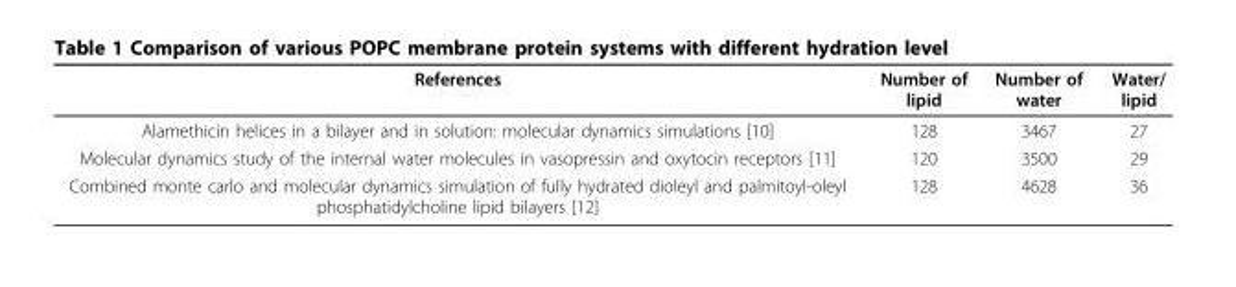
<table><thead><tr><td>References</td><td>Number of lipid</td><td>Number of water</td><td>Water/ lipid</td></tr></thead><tbody><tr><td>Alamethicin helices in a bilayer and in solution: molecular dynamics simulations [10]</td><td>128</td><td>3467</td><td>27</td></tr><tr><td>Molecular dynamics study of the internal water molecules in vasopressin and oxytocin receptors [11]</td><td>120</td><td>3500</td><td>29</td></tr><tr><td>Combined monte carlo and molecular dynamics simulation of fully hydrated dioleyl and palmitoyl-oleyl phosphatidylcholine lipid bilayers [12]</td><td>128</td><td>4628</td><td>36</td></tr></tbody></table>